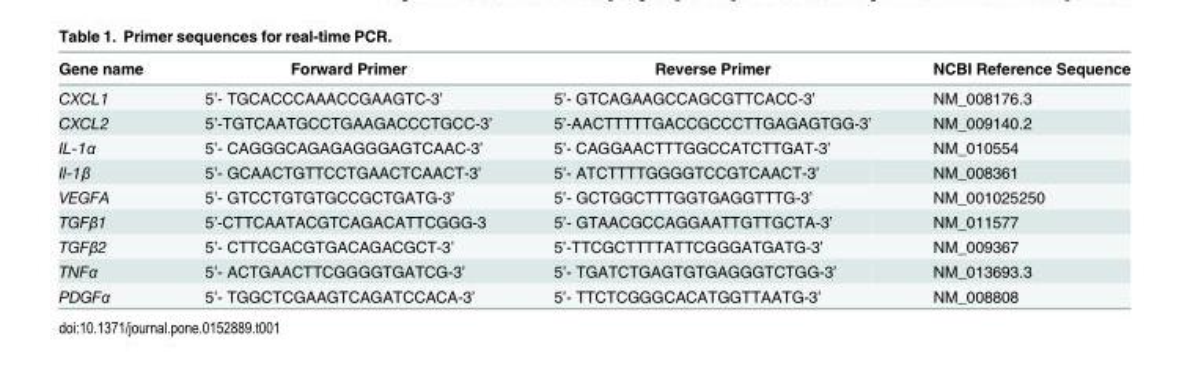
<table><thead><tr><td>Gene name</td><td>Forward Primer</td><td>Reverse Primer</td><td>NCBI Reference Sequence</td></tr></thead><tbody><tr><td>CXCL1</td><td>5’- TGCACCCAAACCGAAGTC-3’</td><td>5’- GTCAGAAGCCAGCGTTCACC-3’</td><td>NM_008176.3</td></tr><tr><td>CXCL2</td><td>5’-TGTCAATGCCTGAAGACCCTGCC-3’</td><td>5’-AACTTTTTGACCGCCCTTGAGAGTGG-3’</td><td>NM_009140.2</td></tr><tr><td>IL-1α</td><td>5’- CAGGGCAGAGAGGGAGTCAAC-3’</td><td>5’- CAGGAACTTTGGCCATCTTGAT-3’</td><td>NM_010554</td></tr><tr><td>Il-1β</td><td>5’- GCAACTGTTCCTGAACTCAACT-3’</td><td>5’- ATCTTTTGGGGTCCGTCAACT-3’</td><td>NM_008361</td></tr><tr><td>VEGFA</td><td>5’- GTCCTGTGTGCCGCTGATG-3’</td><td>5’- GCTGGCTTTGGTGAGGTTTG-3’</td><td>NM_001025250</td></tr><tr><td>TGFβ1</td><td>5’-CTTCAATACGTCAGACATTCGGG-3</td><td>5’- GTAACGCCAGGAATTGTTGCTA-3’</td><td>NM_011577</td></tr><tr><td>TGFβ2</td><td>5’- CTTCGACGTGACAGACGCT-3’</td><td>5’-TTCGCTTTTATTCGGGATGATG-3’</td><td>NM_009367</td></tr><tr><td>TNFα</td><td>5’- ACTGAACTTCGGGGTGATCG-3’</td><td>5’- TGATCTGAGTGTGAGGGTCTGG-3’</td><td>NM_013693.3</td></tr><tr><td>PDGFα</td><td>5’- TGGCTCGAAGTCAGATCCACA-3’</td><td>5’- TTCTCGGGCACATGGTTAATG-3’</td><td>NM_008808</td></tr></tbody></table>